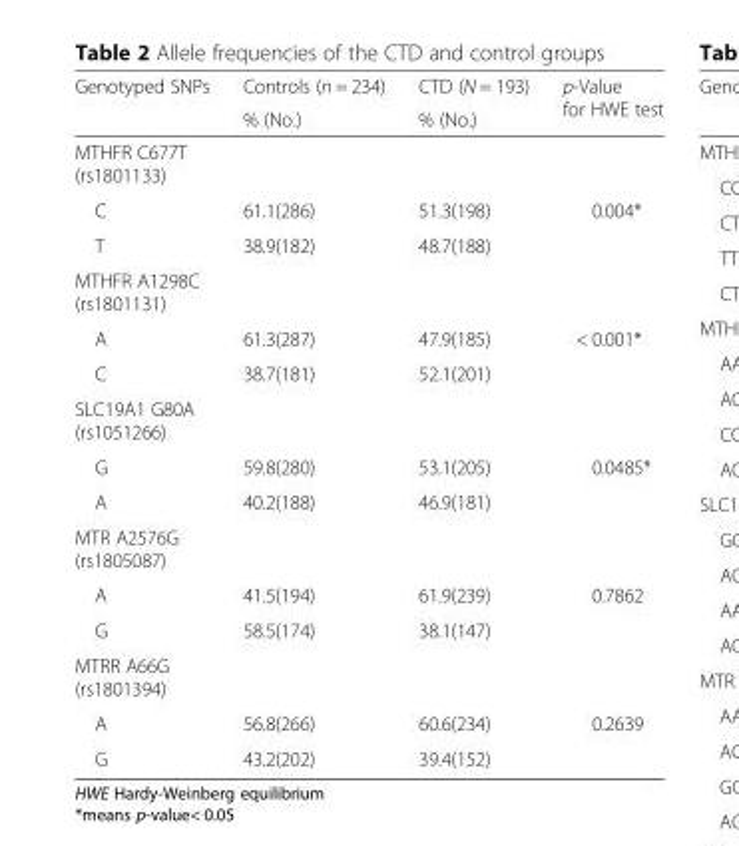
<table><thead><tr><td rowspan="2">Genotyped SNPs</td><td rowspan="2">Controls (n = 234) % (No.)</td><td rowspan="2">CTD (N = 193) % (No.)</td><td rowspan="2">p-Value for HWE test</td></tr><tr></tr></thead><tbody><tr><td colspan="4">MTHFR C677T (rs1801133)</td></tr><tr><td>C</td><td>61.1(286)</td><td>51.3(198)</td><td rowspan="2">0.004*</td></tr><tr><td>T</td><td>38.9(182)</td><td>48.7(188)</td></tr><tr><td colspan="4">MTHFR A1298C (rs1801131)</td></tr><tr><td>A</td><td>61.3(287)</td><td>47.9(185)</td><td rowspan="2">&lt; 0.001*</td></tr><tr><td>C</td><td>38.7(181)</td><td>52.1(201)</td></tr><tr><td colspan="4">SLC19A1 G80A (rs1051266)</td></tr><tr><td>G</td><td>59.8(280)</td><td>53.1(205)</td><td rowspan="2">0.0485*</td></tr><tr><td>A</td><td>40.2(188)</td><td>46.9(181)</td></tr><tr><td colspan="4">MTR A2576G (rs1805087)</td></tr><tr><td>A</td><td>41.5(194)</td><td>61.9(239)</td><td rowspan="2">0.7862</td></tr><tr><td>G</td><td>58.5(174)</td><td>38.1(147)</td></tr><tr><td colspan="4">MTRR A66G (rs1801394)</td></tr><tr><td>A</td><td>56.8(266)</td><td>60.6(234)</td><td rowspan="2">0.2639</td></tr><tr><td>G</td><td>43.2(202)</td><td>39.4(152)</td></tr></tbody></table>